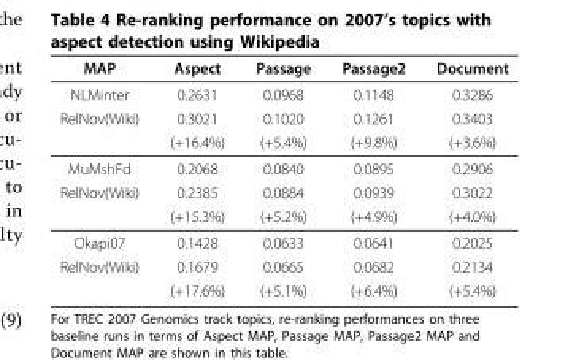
<table><thead><tr><td>MAP</td><td>Aspect</td><td>Passage</td><td>Passage2</td><td>Document</td></tr></thead><tbody><tr><td>NLMinter</td><td>0.2631</td><td>0.0968</td><td>0.1148</td><td>0.3286</td></tr><tr><td rowspan="2">RelNov(Wiki)</td><td>0.3021</td><td>0.1020</td><td>0.1261</td><td>0.3403</td></tr><tr><td>(+16.4%)</td><td>(+5.4%)</td><td>(+9.8%)</td><td>(+3.6%)</td></tr><tr><td>MuMshFd</td><td>0.2068</td><td>0.0840</td><td>0.0895</td><td>0.2906</td></tr><tr><td rowspan="2">RelNov(Wiki)</td><td>0.2385</td><td>0.0884</td><td>0.0939</td><td>0.3022</td></tr><tr><td>(+15.3%)</td><td>(+5.2%)</td><td>(+4.9%)</td><td>(+4.0%)</td></tr><tr><td>Okapi07</td><td>0.1428</td><td>0.0633</td><td>0.0641</td><td>0.2025</td></tr><tr><td rowspan="2">RelNov(Wiki)</td><td>0.1679</td><td>0.0665</td><td>0.0682</td><td>0.2134</td></tr><tr><td>(+17.6%)</td><td>(+5.1%)</td><td>(+6.4%)</td><td>(+5.4%)</td></tr></tbody></table>